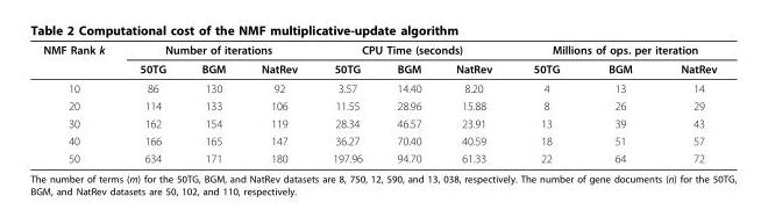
<table><thead><tr><td rowspan="2">NMF Rank k</td><td colspan="3">Number of iterations</td><td colspan="3">CPU Time (seconds)</td><td colspan="3">Millions of ops. per iteration</td></tr><tr><td>50TG</td><td>BGM</td><td>NatRev</td><td>50TG</td><td>BGM</td><td>NatRev</td><td>50TG</td><td>BGM</td><td>NatRev</td></tr></thead><tbody><tr><td>10</td><td>86</td><td>130</td><td>92</td><td>3.57</td><td>14.40</td><td>8.20</td><td>4</td><td>13</td><td>14</td></tr><tr><td>20</td><td>114</td><td>133</td><td>106</td><td>11.55</td><td>28.96</td><td>15.88</td><td>8</td><td>26</td><td>29</td></tr><tr><td>30</td><td>162</td><td>154</td><td>119</td><td>28.34</td><td>46.57</td><td>23.91</td><td>13</td><td>39</td><td>43</td></tr><tr><td>40</td><td>166</td><td>165</td><td>147</td><td>36.27</td><td>70.40</td><td>40.59</td><td>18</td><td>51</td><td>57</td></tr><tr><td>50</td><td>634</td><td>171</td><td>180</td><td>197.96</td><td>94.70</td><td>61.33</td><td>22</td><td>64</td><td>72</td></tr></tbody></table>